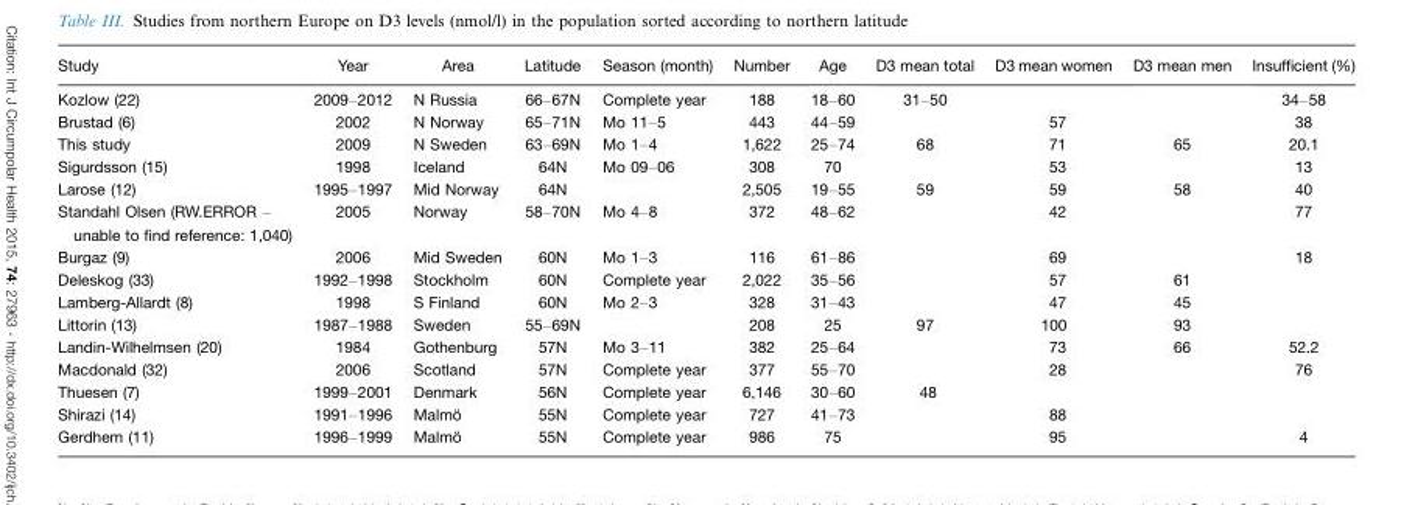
<table><thead><tr><td>Study</td><td>Year</td><td>Area</td><td>Latitude</td><td>Season (month)</td><td>Number</td><td>Age</td><td>D3 mean total</td><td>D3 mean women</td><td>D3 mean men</td><td>Insufficient (%)</td></tr></thead><tbody><tr><td>Kozlow (22)</td><td>2009–2012</td><td>N Russia</td><td>66–67N</td><td>Complete year</td><td>188</td><td>18–60</td><td>31–50</td><td></td><td></td><td>34–58</td></tr><tr><td>Brustad (6)</td><td>2002</td><td>N Norway</td><td>65–71N</td><td>Mo 11–5</td><td>443</td><td>44–59</td><td></td><td>57</td><td></td><td>38</td></tr><tr><td>This study</td><td>2009</td><td>N Sweden</td><td>63–69N</td><td>Mo 1–4</td><td>1,622</td><td>25–74</td><td>68</td><td>71</td><td>65</td><td>20.1</td></tr><tr><td>Sigurdsson (15)</td><td>1998</td><td>Iceland</td><td>64N</td><td>Mo 09–06</td><td>308</td><td>70</td><td></td><td>53</td><td></td><td>13</td></tr><tr><td>Larose (12)</td><td>1995–1997</td><td>Mid Norway</td><td>64N</td><td></td><td>2,505</td><td>19–55</td><td>59</td><td>59</td><td>58</td><td>40</td></tr><tr><td>Standahl Olsen (RW.ERROR – unable to find reference: 1,040)</td><td>2005</td><td>Norway</td><td>58–70N</td><td>Mo 4–8</td><td>372</td><td>48–62</td><td></td><td>42</td><td></td><td>77</td></tr><tr><td>Burgaz (9)</td><td>2006</td><td>Mid Sweden</td><td>60N</td><td>Mo 1–3</td><td>116</td><td>61–86</td><td></td><td>69</td><td></td><td>18</td></tr><tr><td>Deleskog (33)</td><td>1992–1998</td><td>Stockholm</td><td>60N</td><td>Complete year</td><td>2,022</td><td>35–56</td><td></td><td>57</td><td>61</td><td></td></tr><tr><td>Lamberg-Allardt (8)</td><td>1998</td><td>S Finland</td><td>60N</td><td>Mo 2–3</td><td>328</td><td>31–43</td><td></td><td>47</td><td>45</td><td></td></tr><tr><td>Littorin (13)</td><td>1987–1988</td><td>Sweden</td><td>55–69N</td><td></td><td>208</td><td>25</td><td>97</td><td>100</td><td>93</td><td></td></tr><tr><td>Landin-Wilhelmsen (20)</td><td>1984</td><td>Gothenburg</td><td>57N</td><td>Mo 3–11</td><td>382</td><td>25–64</td><td></td><td>73</td><td>66</td><td>52.2</td></tr><tr><td>Macdonald (32)</td><td>2006</td><td>Scotland</td><td>57N</td><td>Complete year</td><td>377</td><td>55–70</td><td></td><td>28</td><td></td><td>76</td></tr><tr><td>Thuesen (7)</td><td>1999–2001</td><td>Denmark</td><td>56N</td><td>Complete year</td><td>6,146</td><td>30–60</td><td>48</td><td></td><td></td><td></td></tr><tr><td>Shirazi (14)</td><td>1991–1996</td><td>Malmo¨</td><td>55N</td><td>Complete year</td><td>727</td><td>41–73</td><td></td><td>88</td><td></td><td></td></tr><tr><td>Gerdhem (11)</td><td>1996–1999</td><td>Malmo¨</td><td>55N</td><td>Complete year</td><td>986</td><td>75</td><td></td><td>95</td><td></td><td>4</td></tr></tbody></table>